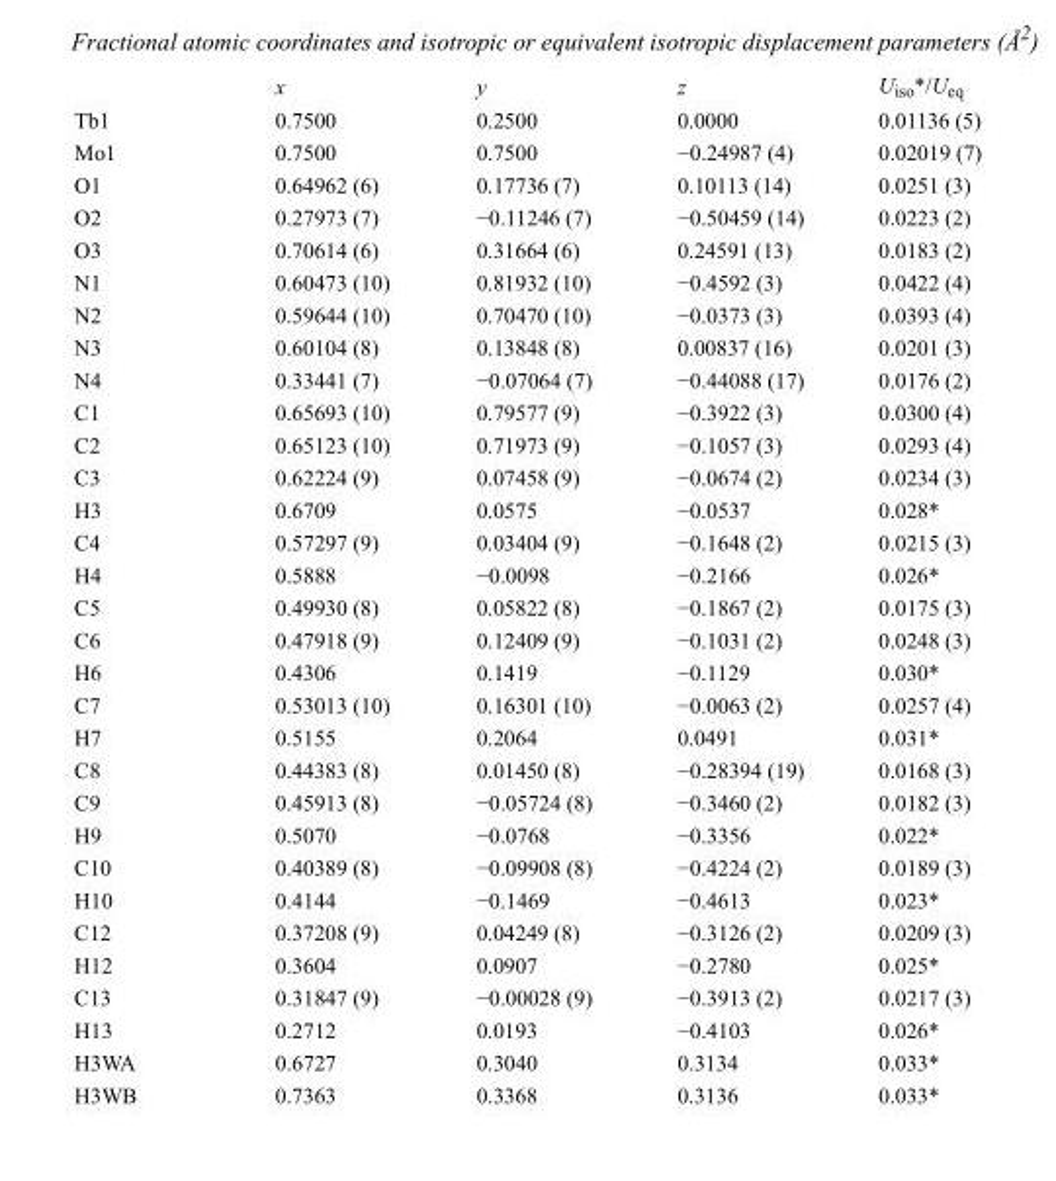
<table><thead><tr><td></td><td>x</td><td>y</td><td>z</td><td>U<sub>iso</sub>*/U<sub>eq</sub></td></tr></thead><tbody><tr><td>Tb1</td><td>0.7500</td><td>0.2500</td><td>0.0000</td><td>0.01136 (5)</td></tr><tr><td>Mo1</td><td>0.7500</td><td>0.7500</td><td>−0.24987 (4)</td><td>0.02019 (7)</td></tr><tr><td>O1</td><td>0.64962 (6)</td><td>0.17736 (7)</td><td>0.10113 (14)</td><td>0.0251 (3)</td></tr><tr><td>O2</td><td>0.27973 (7)</td><td>−0.11246 (7)</td><td>−0.50459 (14)</td><td>0.0223 (2)</td></tr><tr><td>O3</td><td>0.70614 (6)</td><td>0.31664 (6)</td><td>0.24591 (13)</td><td>0.0183 (2)</td></tr><tr><td>N1</td><td>0.60473 (10)</td><td>0.81932 (10)</td><td>−0.4592 (3)</td><td>0.0422 (4)</td></tr><tr><td>N2</td><td>0.59644 (10)</td><td>0.70470 (10)</td><td>−0.0373 (3)</td><td>0.0393 (4)</td></tr><tr><td>N3</td><td>0.60104 (8)</td><td>0.13848 (8)</td><td>0.00837 (16)</td><td>0.0201 (3)</td></tr><tr><td>N4</td><td>0.33441 (7)</td><td>−0.07064 (7)</td><td>−0.44088 (17)</td><td>0.0176 (2)</td></tr><tr><td>C1</td><td>0.65693 (10)</td><td>0.79577 (9)</td><td>−0.3922 (3)</td><td>0.0300 (4)</td></tr><tr><td>C2</td><td>0.65123 (10)</td><td>0.71973 (9)</td><td>−0.1057 (3)</td><td>0.0293 (4)</td></tr><tr><td>C3</td><td>0.62224 (9)</td><td>0.07458 (9)</td><td>−0.0674 (2)</td><td>0.0234 (3)</td></tr><tr><td>H3</td><td>0.6709</td><td>0.0575</td><td>−0.0537</td><td>0.028*</td></tr><tr><td>C4</td><td>0.57297 (9)</td><td>0.03404 (9)</td><td>−0.1648 (2)</td><td>0.0215 (3)</td></tr><tr><td>H4</td><td>0.5888</td><td>−0.0098</td><td>−0.2166</td><td>0.026*</td></tr><tr><td>C5</td><td>0.49930 (8)</td><td>0.05822 (8)</td><td>−0.1867 (2)</td><td>0.0175 (3)</td></tr><tr><td>C6</td><td>0.47918 (9)</td><td>0.12409 (9)</td><td>−0.1031 (2)</td><td>0.0248 (3)</td></tr><tr><td>H6</td><td>0.4306</td><td>0.1419</td><td>−0.1129</td><td>0.030*</td></tr><tr><td>C7</td><td>0.53013 (10)</td><td>0.16301 (10)</td><td>−0.0063 (2)</td><td>0.0257 (4)</td></tr><tr><td>H7</td><td>0.5155</td><td>0.2064</td><td>0.0491</td><td>0.031*</td></tr><tr><td>C8</td><td>0.44383 (8)</td><td>0.01450 (8)</td><td>−0.28394 (19)</td><td>0.0168 (3)</td></tr><tr><td>C9</td><td>0.45913 (8)</td><td>−0.05724 (8)</td><td>−0.3460 (2)</td><td>0.0182 (3)</td></tr><tr><td>H9</td><td>0.5070</td><td>−0.0768</td><td>−0.3356</td><td>0.022*</td></tr><tr><td>C10</td><td>0.40389 (8)</td><td>−0.09908 (8)</td><td>−0.4224 (2)</td><td>0.0189 (3)</td></tr><tr><td>H10</td><td>0.4144</td><td>−0.1469</td><td>−0.4613</td><td>0.023*</td></tr><tr><td>C12</td><td>0.37208 (9)</td><td>0.04249 (8)</td><td>−0.3126 (2)</td><td>0.0209 (3)</td></tr><tr><td>H12</td><td>0.3604</td><td>0.0907</td><td>−0.2780</td><td>0.025*</td></tr><tr><td>C13</td><td>0.31847 (9)</td><td>−0.00028 (9)</td><td>−0.3913 (2)</td><td>0.0217 (3)</td></tr><tr><td>H13</td><td>0.2712</td><td>0.0193</td><td>−0.4103</td><td>0.026*</td></tr><tr><td>H3WA</td><td>0.6727</td><td>0.3040</td><td>0.3134</td><td>0.033*</td></tr><tr><td>H3WB</td><td>0.7363</td><td>0.3368</td><td>0.3136</td><td>0.033*</td></tr></tbody></table>